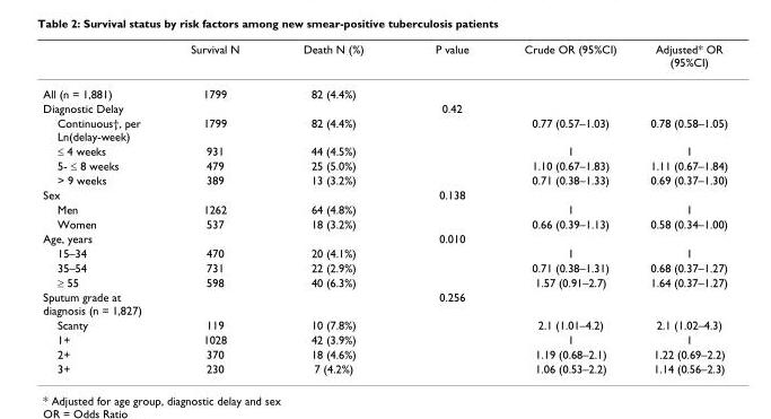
<table><thead><tr><td></td><td>Survival N</td><td>Death N (%)</td><td>P value</td><td>Crude OR (95%CI)</td><td>Adjusted* OR (95%CI)</td></tr></thead><tbody><tr><td>All (n = 1,881)</td><td>1799</td><td>82 (4.4%)</td><td></td><td></td><td></td></tr><tr><td>Diagnostic Delay</td><td></td><td></td><td>0.42</td><td></td><td></td></tr><tr><td>Continuous†, per Ln(delay-week)</td><td>1799</td><td>82 (4.4%)</td><td></td><td>0.77 (0.57–1.03)</td><td>0.78 (0.58–1.05)</td></tr><tr><td>≤ 4 weeks</td><td>931</td><td>44 (4.5%)</td><td></td><td>1</td><td>1</td></tr><tr><td>5- ≤ 8 weeks</td><td>479</td><td>25 (5.0%)</td><td></td><td>1.10 (0.67–1.83)</td><td>1.11 (0.67–1.84)</td></tr><tr><td>&gt; 9 weeks</td><td>389</td><td>13 (3.2%)</td><td></td><td>0.71 (0.38–1.33)</td><td>0.69 (0.37–1.30)</td></tr><tr><td>Sex</td><td></td><td></td><td>0.138</td><td></td><td></td></tr><tr><td>Men</td><td>1262</td><td>64 (4.8%)</td><td></td><td>1</td><td>1</td></tr><tr><td>Women</td><td>537</td><td>18 (3.2%)</td><td></td><td>0.66 (0.39–1.13)</td><td>0.58 (0.34–1.00)</td></tr><tr><td>Age, years</td><td></td><td></td><td>0.010</td><td></td><td></td></tr><tr><td>15–34</td><td>470</td><td>20 (4.1%)</td><td></td><td>1</td><td>1</td></tr><tr><td>35–54</td><td>731</td><td>22 (2.9%)</td><td></td><td>0.71 (0.38–1.31)</td><td>0.68 (0.37–1.27)</td></tr><tr><td>≥ 55</td><td>598</td><td>40 (6.3%)</td><td></td><td>1.57 (0.91–2.7)</td><td>1.64 (0.37–1.27)</td></tr><tr><td>Sputum grade at diagnosis (n = 1,827)</td><td></td><td></td><td>0.256</td><td></td><td></td></tr><tr><td>Scanty</td><td>119</td><td>10 (7.8%)</td><td></td><td>2.1 (1.01–4.2)</td><td>2.1 (1.02–4.3)</td></tr><tr><td>1+</td><td>1028</td><td>42 (3.9%)</td><td></td><td>1</td><td>1</td></tr><tr><td>2+</td><td>370</td><td>18 (4.6%)</td><td></td><td>1.19 (0.68–2.1)</td><td>1.22 (0.69–2.2)</td></tr><tr><td>3+</td><td>230</td><td>7 (4.2%)</td><td></td><td>1.06 (0.53–2.2)</td><td>1.14 (0.56–2.3)</td></tr></tbody></table>